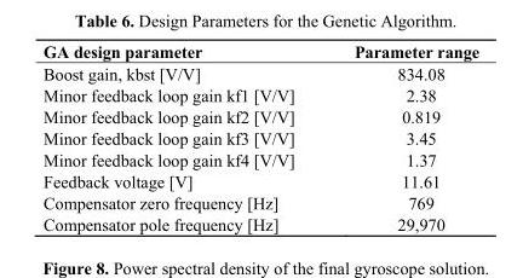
<table><thead><tr><td>GA design parameter</td><td>Parameter range</td></tr></thead><tbody><tr><td>Boost gain, kbst [V/V]</td><td>834.08</td></tr><tr><td>Minor feedback loop gain kf1 [V/V]</td><td>2.38</td></tr><tr><td>Minor feedback loop gain kf2 [V/V]</td><td>0.819</td></tr><tr><td>Minor feedback loop gain kf3 [V/V]</td><td>3.45</td></tr><tr><td>Minor feedback loop gain kf4 [V/V]</td><td>1.37</td></tr><tr><td>Feedback voltage [V]</td><td>11.61</td></tr><tr><td>Compensator zero frequency [Hz]</td><td>769</td></tr><tr><td>Compensator pole frequency [Hz]</td><td>29,970</td></tr></tbody></table>